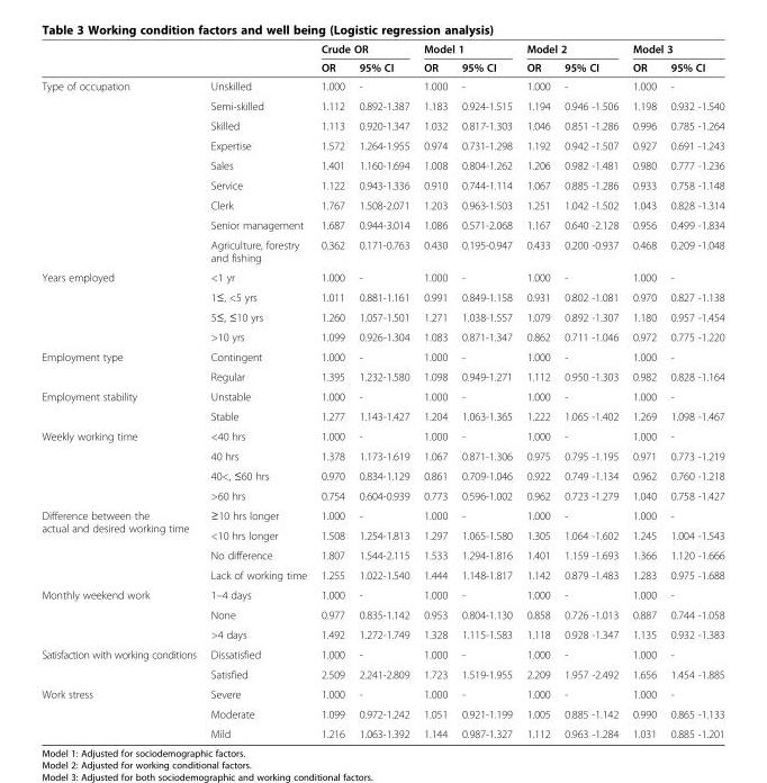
<table><thead><tr><td rowspan="2"></td><td rowspan="2"></td><td colspan="2">Crude OR</td><td colspan="2">Model 1</td><td colspan="2">Model 2</td><td colspan="2">Model 3</td></tr><tr><td>OR</td><td>95% CI</td><td>OR</td><td>95% CI</td><td>OR</td><td>95% CI</td><td>OR</td><td>95% CI</td></tr></thead><tbody><tr><td rowspan="9">Type of occupation</td><td>Unskilled</td><td>1.000</td><td>-</td><td>1.000</td><td>-</td><td>1.000</td><td>-</td><td>1.000</td><td>-</td></tr><tr><td>Semi-skilled</td><td>1.112</td><td>0.892-1.387</td><td>1.183</td><td>0.924-1.515</td><td>1.194</td><td>0.946 -1.506</td><td>1.198</td><td>0.932 -1.540</td></tr><tr><td>Skilled</td><td>1.113</td><td>0.920-1.347</td><td>1.032</td><td>0.817-1.303</td><td>1.046</td><td>0.851 -1.286</td><td>0.996</td><td>0.785 -1.264</td></tr><tr><td>Expertise</td><td>1.572</td><td>1.264-1.955</td><td>0.974</td><td>0.731-1.298</td><td>1.192</td><td>0.942 -1.507</td><td>0.927</td><td>0.691 -1.243</td></tr><tr><td>Sales</td><td>1.401</td><td>1.160-1.694</td><td>1.008</td><td>0.804-1.262</td><td>1.206</td><td>0.982 -1.481</td><td>0.980</td><td>0.777 -1.236</td></tr><tr><td>Service</td><td>1.122</td><td>0.943-1.336</td><td>0.910</td><td>0.744-1.114</td><td>1.067</td><td>0.885 -1.286</td><td>0.933</td><td>0.758 -1.148</td></tr><tr><td>Clerk</td><td>1.767</td><td>1.508-2.071</td><td>1.203</td><td>0.963-1.503</td><td>1.251</td><td>1.042 -1.502</td><td>1.043</td><td>0.828 -1.314</td></tr><tr><td>Senior management</td><td>1.687</td><td>0.944-3.014</td><td>1.086</td><td>0.571-2.068</td><td>1.167</td><td>0.640 -2.128</td><td>0.956</td><td>0.499 -1.834</td></tr><tr><td>Agriculture, forestry and fishing</td><td>0.362</td><td>0.171-0.763</td><td>0.430</td><td>0.195-0.947</td><td>0.433</td><td>0.200 -0.937</td><td>0.468</td><td>0.209 -1.048</td></tr><tr><td rowspan="4">Years employed</td><td>&lt;1 yr</td><td>1.000</td><td>-</td><td>1.000</td><td>-</td><td>1.000</td><td>-</td><td>1.000</td><td>-</td></tr><tr><td>1≤, &lt;5 yrs</td><td>1.011</td><td>0.881-1.161</td><td>0.991</td><td>0.849-1.158</td><td>0.931</td><td>0.802 -1.081</td><td>0.970</td><td>0.827 -1.138</td></tr><tr><td>5≤, ≤10 yrs</td><td>1.260</td><td>1.057-1.501</td><td>1.271</td><td>1.038-1.557</td><td>1.079</td><td>0.892 -1.307</td><td>1.180</td><td>0.957 -1.454</td></tr><tr><td>&gt;10 yrs</td><td>1.099</td><td>0.926-1.304</td><td>1.083</td><td>0.871-1.347</td><td>0.862</td><td>0.711 -1.046</td><td>0.972</td><td>0.775 -1.220</td></tr><tr><td rowspan="2">Employment type</td><td>Contingent</td><td>1.000</td><td>-</td><td>1.000</td><td>-</td><td>1.000</td><td>-</td><td>1.000</td><td>-</td></tr><tr><td>Regular</td><td>1.395</td><td>1.232-1.580</td><td>1.098</td><td>0.949-1.271</td><td>1.112</td><td>0.950 -1.303</td><td>0.982</td><td>0.828 -1.164</td></tr><tr><td rowspan="2">Employment stability</td><td>Unstable</td><td>1.000</td><td>-</td><td>1.000</td><td>-</td><td>1.000</td><td>-</td><td>1.000</td><td>-</td></tr><tr><td>Stable</td><td>1.277</td><td>1.143-1.427</td><td>1.204</td><td>1.063-1.365</td><td>1.222</td><td>1.065 -1.402</td><td>1.269</td><td>1.098 -1.467</td></tr><tr><td rowspan="4">Weekly working time</td><td>&lt;40 hrs</td><td>1.000</td><td>-</td><td>1.000</td><td>-</td><td>1.000</td><td>-</td><td>1.000</td><td>-</td></tr><tr><td>40 hrs</td><td>1.378</td><td>1.173-1.619</td><td>1.067</td><td>0.871-1.306</td><td>0.975</td><td>0.795 -1.195</td><td>0.971</td><td>0.773 -1.219</td></tr><tr><td>40&lt;, ≤60 hrs</td><td>0.970</td><td>0.834-1.129</td><td>0.861</td><td>0.709-1.046</td><td>0.922</td><td>0.749 -1.134</td><td>0.962</td><td>0.760 -1.218</td></tr><tr><td>&gt;60 hrs</td><td>0.754</td><td>0.604-0.939</td><td>0.773</td><td>0.596-1.002</td><td>0.962</td><td>0.723 -1.279</td><td>1.040</td><td>0.758 -1.427</td></tr><tr><td rowspan="4">Difference between the actual and desired working time</td><td>≥10 hrs longer</td><td>1.000</td><td>-</td><td>1.000</td><td>-</td><td>1.000</td><td>-</td><td>1.000</td><td>-</td></tr><tr><td>&lt;10 hrs longer</td><td>1.508</td><td>1.254-1.813</td><td>1.297</td><td>1.065-1.580</td><td>1.305</td><td>1.064 -1.602</td><td>1.245</td><td>1.004 -1.543</td></tr><tr><td>No difference</td><td>1.807</td><td>1.544-2.115</td><td>1.533</td><td>1.294-1.816</td><td>1.401</td><td>1.159 -1.693</td><td>1.366</td><td>1.120 -1.666</td></tr><tr><td>Lack of working time</td><td>1.255</td><td>1.022-1.540</td><td>1.444</td><td>1.148-1.817</td><td>1.142</td><td>0.879 -1.483</td><td>1.283</td><td>0.975 -1.688</td></tr><tr><td rowspan="3">Monthly weekend work</td><td>1–4 days</td><td>1.000</td><td>-</td><td>1.000</td><td>-</td><td>1.000</td><td>-</td><td>1.000</td><td>-</td></tr><tr><td>None</td><td>0.977</td><td>0.835-1.142</td><td>0.953</td><td>0.804-1.130</td><td>0.858</td><td>0.726 -1.013</td><td>0.887</td><td>0.744 -1.058</td></tr><tr><td>&gt;4 days</td><td>1.492</td><td>1.272-1.749</td><td>1.328</td><td>1.115-1.583</td><td>1.118</td><td>0.928 -1.347</td><td>1.135</td><td>0.932 -1.383</td></tr><tr><td rowspan="2">Satisfaction with working conditions</td><td>Dissatisfied</td><td>1.000</td><td>-</td><td>1.000</td><td>-</td><td>1.000</td><td>-</td><td>1.000</td><td>-</td></tr><tr><td>Satisfied</td><td>2.509</td><td>2.241-2.809</td><td>1.723</td><td>1.519-1.955</td><td>2.209</td><td>1.957 -2.492</td><td>1.656</td><td>1.454 -1.885</td></tr><tr><td rowspan="3">Work stress</td><td>Severe</td><td>1.000</td><td>-</td><td>1.000</td><td>-</td><td>1.000</td><td>-</td><td>1.000</td><td>-</td></tr><tr><td>Moderate</td><td>1.099</td><td>0.972-1.242</td><td>1.051</td><td>0.921-1.199</td><td>1.005</td><td>0.885 -1.142</td><td>0.990</td><td>0.865 -1.133</td></tr><tr><td>Mild</td><td>1.216</td><td>1.063-1.392</td><td>1.144</td><td>0.987-1.327</td><td>1.112</td><td>0.963 -1.284</td><td>1.031</td><td>0.885 -1.201</td></tr></tbody></table>